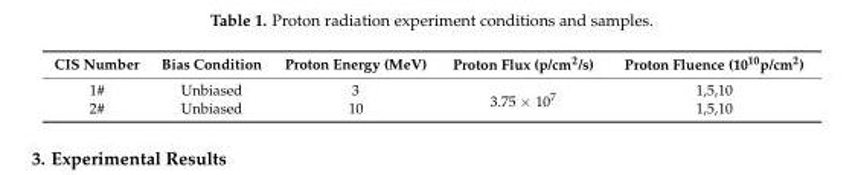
<table><thead><tr><td>CIS Number</td><td>Bias Condition</td><td>Proton Energy (MeV)</td><td>Proton Flux (p/cm<sup>2</sup>/s)</td><td>Proton Fluence (10<sup>10</sup>p/cm<sup>2</sup>)</td></tr></thead><tbody><tr><td>1#</td><td>Unbiased</td><td>3</td><td rowspan="2">3.75 × 10<sup>7</sup></td><td>1,5,10</td></tr><tr><td>2#</td><td>Unbiased</td><td>10</td><td>1,5,10</td></tr></tbody></table>